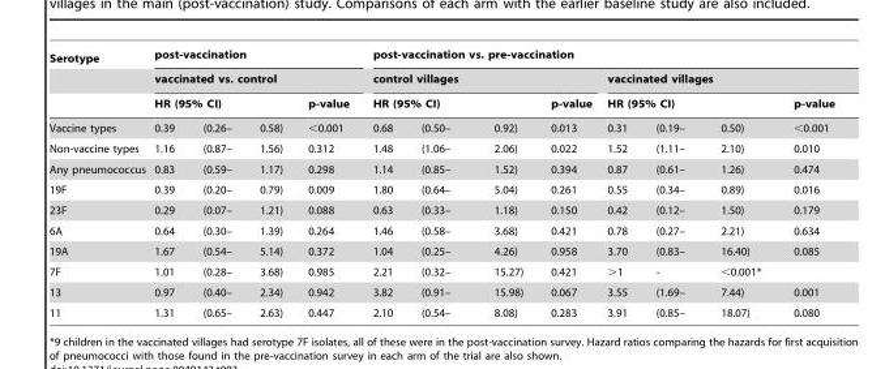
<table><thead><tr><td rowspan="4">Serotype Vaccine types</td><td rowspan="2" colspan="4">post-vaccination vaccinated vs. control</td><td colspan="8">post-vaccination vs. pre-vaccination</td></tr><tr><td colspan="4">control villages</td><td colspan="4">vaccinated villages</td></tr><tr><td colspan="3">HR (95% CI)</td><td rowspan="2">p-value &lt;0.001</td><td colspan="3">HR (95% CI)</td><td rowspan="2">p-value 0.013</td><td colspan="3">HR (95% CI)</td><td rowspan="2">p-value &lt;0.001</td></tr><tr><td>0.39</td><td>(0.26–</td><td>0.58)</td><td>0.68</td><td>(0.50–</td><td>0.92)</td><td>0.31</td><td>(0.19–</td><td>0.50)</td></tr></thead><tbody><tr><td>Non-vaccine types</td><td>1.16</td><td>(0.87–</td><td>1.56)</td><td>0.312</td><td>1.48</td><td>(1.06–</td><td>2.06)</td><td>0.022</td><td>1.52</td><td>(1.11–</td><td>2.10)</td><td>0.010</td></tr><tr><td>Any pneumococcus</td><td>0.83</td><td>(0.59–</td><td>1.17)</td><td>0.298</td><td>1.14</td><td>(0.85–</td><td>1.52)</td><td>0.394</td><td>0.87</td><td>(0.61–</td><td>1.26)</td><td>0.474</td></tr><tr><td>19F</td><td>0.39</td><td>(0.20–</td><td>0.79)</td><td>0.009</td><td>1.80</td><td>(0.64–</td><td>5.04)</td><td>0.261</td><td>0.55</td><td>(0.34–</td><td>0.89)</td><td>0.016</td></tr><tr><td>23F</td><td>0.29</td><td>(0.07–</td><td>1.21)</td><td>0.088</td><td>0.63</td><td>(0.33–</td><td>1.18)</td><td>0.150</td><td>0.42</td><td>(0.12–</td><td>1.50)</td><td>0.179</td></tr><tr><td>6A</td><td>0.64</td><td>(0.30–</td><td>1.39)</td><td>0.264</td><td>1.46</td><td>(0.58–</td><td>3.68)</td><td>0.421</td><td>0.78</td><td>(0.27–</td><td>2.21)</td><td>0.634</td></tr><tr><td>19A</td><td>1.67</td><td>(0.54–</td><td>5.14)</td><td>0.372</td><td>1.04</td><td>(0.25–</td><td>4.26)</td><td>0.958</td><td>3.70</td><td>(0.83–</td><td>16.40)</td><td>0.085</td></tr><tr><td>7F</td><td>1.01</td><td>(0.28–</td><td>3.68)</td><td>0.985</td><td>2.21</td><td>(0.32–</td><td>15.27)</td><td>0.421</td><td>&gt;1</td><td>-</td><td>&lt;0.001*</td><td></td></tr><tr><td>13</td><td>0.97</td><td>(0.40–</td><td>2.34)</td><td>0.942</td><td>3.82</td><td>(0.91–</td><td>15.98)</td><td>0.067</td><td>3.55</td><td>(1.69–</td><td>7.44)</td><td>0.001</td></tr><tr><td>11</td><td>1.31</td><td>(0.65–</td><td>2.63)</td><td>0.447</td><td>2.10</td><td>(0.54–</td><td>8.08)</td><td>0.283</td><td>3.91</td><td>(0.85–</td><td>18.07)</td><td>0.080</td></tr></tbody></table>